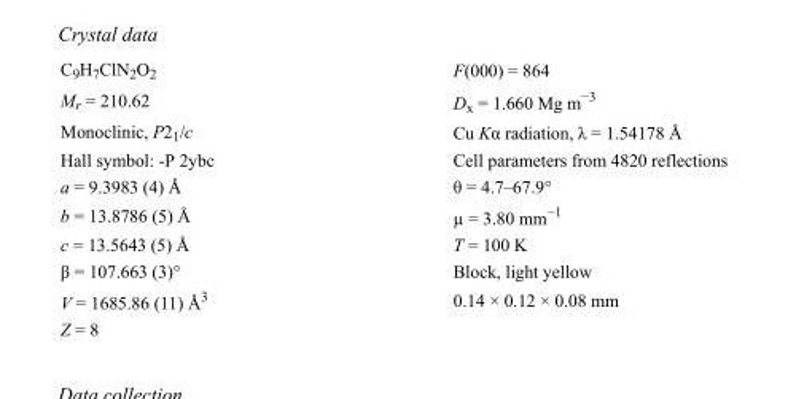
<table><tbody><tr><td>C<sub>9</sub>H<sub>7</sub>ClN<sub>2</sub>O<sub>2</sub></td><td>F(000) = 864</td></tr><tr><td>M<sub>r</sub> = 210.62</td><td>D<sub>x</sub> = 1.660 Mg m<sup>−3</sup></td></tr><tr><td>Monoclinic, P2<sub>1</sub>/c</td><td>Cu Kα radiation, λ = 1.54178 Å</td></tr><tr><td>Hall symbol: -P 2ybc</td><td>Cell parameters from 4820 reflections</td></tr><tr><td>a = 9.3983 (4) Å</td><td>θ = 4.7–67.9°</td></tr><tr><td>b = 13.8786 (5) Å</td><td>µ = 3.80 mm<sup>−1</sup></td></tr><tr><td>c = 13.5643 (5) Å</td><td>T = 100 K</td></tr><tr><td>β = 107.663 (3)°</td><td>Block, light yellow</td></tr><tr><td>V = 1685.86 (11) Å<sup>3</sup></td><td>0.14 × 0.12 × 0.08 mm</td></tr><tr><td>Z = 8</td><td></td></tr></tbody></table>